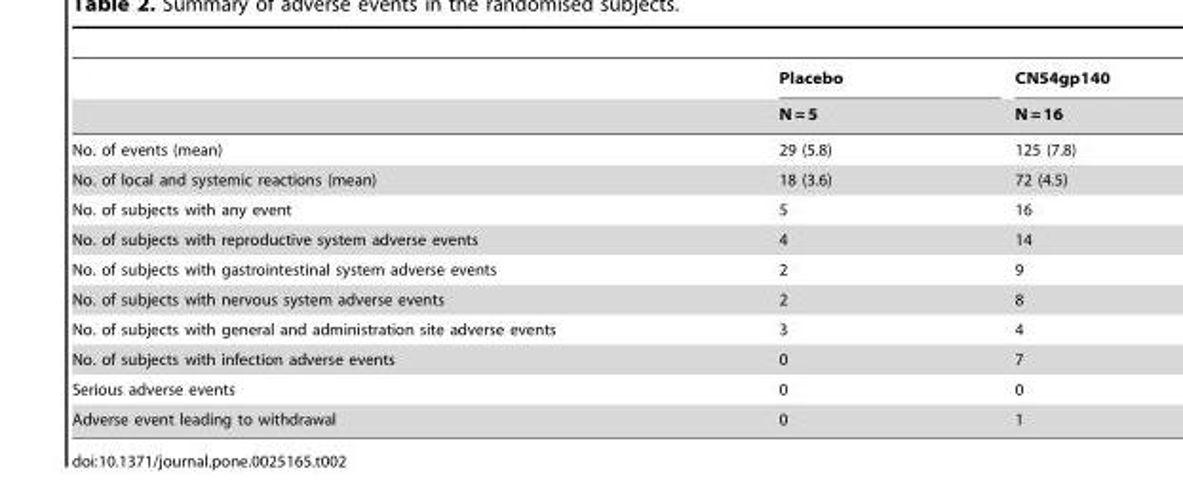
<table><thead><tr><td rowspan="2"></td><td rowspan="2">Placebo N = 5</td><td rowspan="2">CN54gp140 N = 16</td></tr><tr></tr></thead><tbody><tr><td>No. of events (mean)</td><td>29 (5.8)</td><td>125 (7.8)</td></tr><tr><td>No. of local and systemic reactions (mean)</td><td>18 (3.6)</td><td>72 (4.5)</td></tr><tr><td>No. of subjects with any event</td><td>5</td><td>16</td></tr><tr><td>No. of subjects with reproductive system adverse events</td><td>4</td><td>14</td></tr><tr><td>No. of subjects with gastrointestinal system adverse events</td><td>2</td><td>9</td></tr><tr><td>No. of subjects with nervous system adverse events</td><td>2</td><td>8</td></tr><tr><td>No. of subjects with general and administration site adverse events</td><td>3</td><td>4</td></tr><tr><td>No. of subjects with infection adverse events</td><td>0</td><td>7</td></tr><tr><td>Serious adverse events</td><td>0</td><td>0</td></tr><tr><td>Adverse event leading to withdrawal</td><td>0</td><td>1</td></tr></tbody></table>